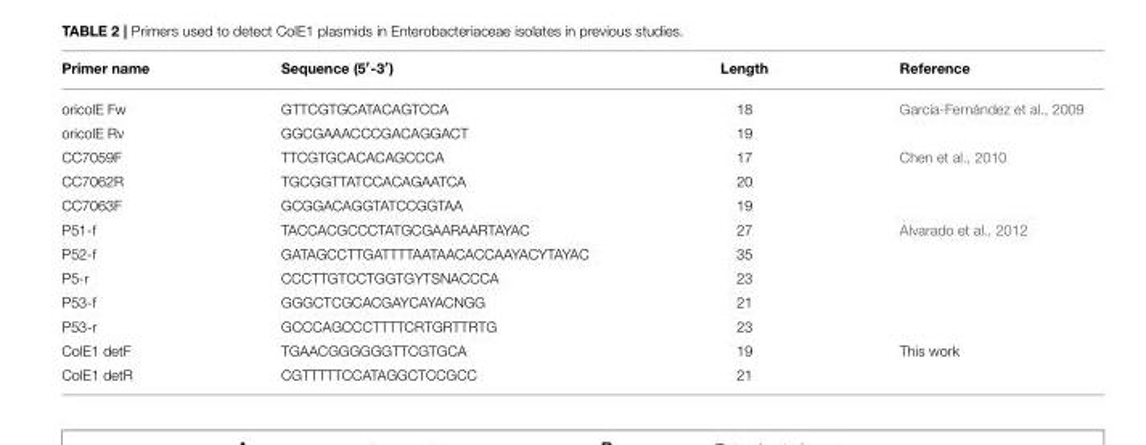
<table><thead><tr><td>Primer name</td><td>Sequence (5′-3′)</td><td>Length</td><td>Reference</td></tr></thead><tbody><tr><td>oricolE Fw</td><td>GTTCGTGCATACAGTCCA</td><td>18</td><td>García-Fernández et al., 2009</td></tr><tr><td>oricolE Rv</td><td>GGCGAAACCCGACAGGACT</td><td>19</td><td></td></tr><tr><td>CC7059F</td><td>TTCGTGCACACAGCCCA</td><td>17</td><td>Chen et al., 2010</td></tr><tr><td>CC7062R</td><td>TGCGGTTATCCACAGAATCA</td><td>20</td><td></td></tr><tr><td>CC7063F</td><td>GCGGACAGGTATCCGGTAA</td><td>19</td><td></td></tr><tr><td>P51-f</td><td>TACCACGCCCTATGCGAARAARTAYAC</td><td>27</td><td>Alvarado et al., 2012</td></tr><tr><td>P52-f</td><td>GATAGCCTTGATTTTAATAACACCAAYACYTAYAC</td><td>35</td><td></td></tr><tr><td>P5-r</td><td>CCCTTGTCCTGGTGYTSNACCCA</td><td>23</td><td></td></tr><tr><td>P53-f</td><td>GGGCTCGCACGAYCAYACNGG</td><td>21</td><td></td></tr><tr><td>P53-r</td><td>GCCCAGCCCTTTTCRTGRTTRTG</td><td>23</td><td></td></tr><tr><td>ColE1 detF</td><td>TGAACGGGGGGTTCGTGCA</td><td>19</td><td>This work</td></tr><tr><td>ColE1 detR</td><td>CGTTTTTCCATAGGCTCCGCC</td><td>21</td><td></td></tr></tbody></table>